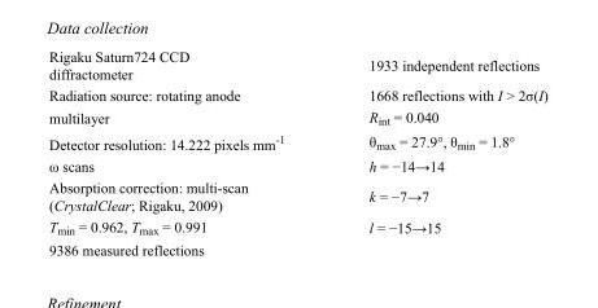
<table><tbody><tr><td>Rigaku Saturn724 CCD diffractometer</td><td>1933 independent reflections</td></tr><tr><td>Radiation source: rotating anode</td><td>1668 reflections with I &gt; 2σ(I)</td></tr><tr><td>multilayer</td><td>R<sub>int</sub> = 0.040</td></tr><tr><td>Detector resolution: 14.222 pixels mm<sup>-1</sup></td><td>θ<sub>max</sub> = 27.9°, θ<sub>min</sub> = 1.8°</td></tr><tr><td>ω scans</td><td>h = −14→14</td></tr><tr><td>Absorption correction: multi-scan (CrystalClear; Rigaku, 2009)</td><td>k = −7→7</td></tr><tr><td>T<sub>min</sub> = 0.962, T<sub>max</sub> = 0.991</td><td>l = −15→15</td></tr><tr><td>9386 measured reflections</td><td></td></tr></tbody></table>